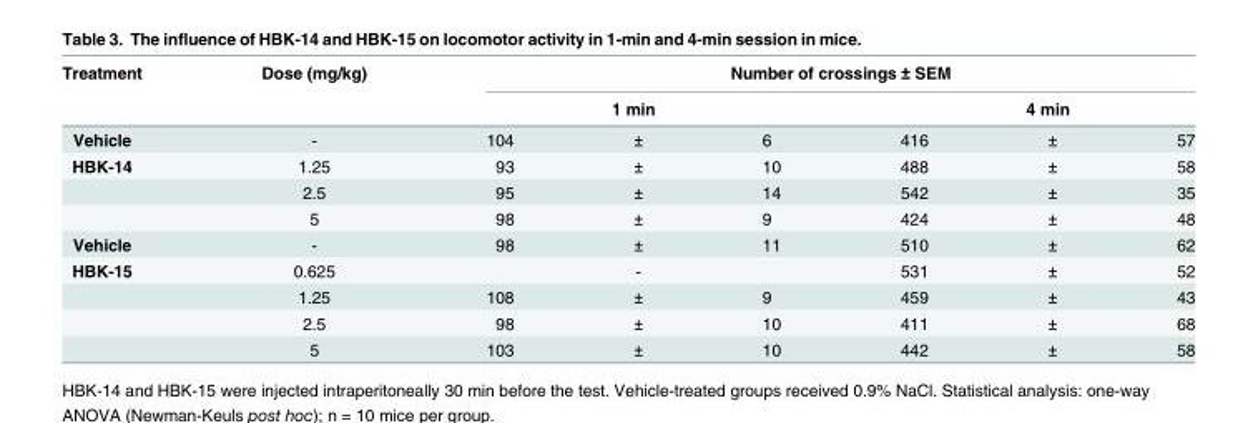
<table><thead><tr><td rowspan="3">Treatment Vehicle</td><td rowspan="3">Dose (mg/kg) -</td><td colspan="6">Number of crossings ± SEM</td></tr><tr><td colspan="3">1 min</td><td colspan="3">4 min</td></tr><tr><td>104</td><td>±</td><td>6</td><td>416</td><td>±</td><td>57</td></tr></thead><tbody><tr><td rowspan="3">HBK-14</td><td>1.25</td><td>93</td><td>±</td><td>10</td><td>488</td><td>±</td><td>58</td></tr><tr><td>2.5</td><td>95</td><td>±</td><td>14</td><td>542</td><td>±</td><td>35</td></tr><tr><td>5</td><td>98</td><td>±</td><td>9</td><td>424</td><td>±</td><td>48</td></tr><tr><td>Vehicle</td><td>-</td><td>98</td><td>±</td><td>11</td><td>510</td><td>±</td><td>62</td></tr><tr><td rowspan="4">HBK-15</td><td>0.625</td><td></td><td>-</td><td></td><td>531</td><td>±</td><td>52</td></tr><tr><td>1.25</td><td>108</td><td>±</td><td>9</td><td>459</td><td>±</td><td>43</td></tr><tr><td>2.5</td><td>98</td><td>±</td><td>10</td><td>411</td><td>±</td><td>68</td></tr><tr><td>5</td><td>103</td><td>±</td><td>10</td><td>442</td><td>±</td><td>58</td></tr></tbody></table>